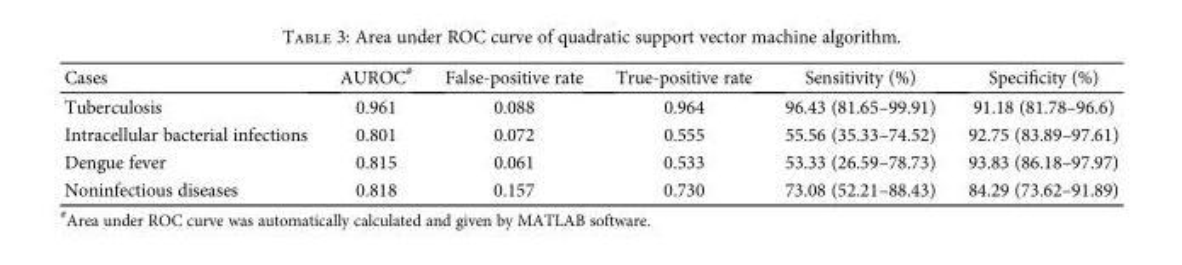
<table><thead><tr><td>Cases</td><td>AUROC<sup>#</sup></td><td>False-positive rate</td><td>True-positive rate</td><td>Sensitivity (%)</td><td>Specificity (%)</td></tr></thead><tbody><tr><td>Tuberculosis</td><td>0.961</td><td>0.088</td><td>0.964</td><td>96.43 (81.65–99.91)</td><td>91.18 (81.78–96.6)</td></tr><tr><td>Intracellular bacterial infections</td><td>0.801</td><td>0.072</td><td>0.555</td><td>55.56 (35.33–74.52)</td><td>92.75 (83.89–97.61)</td></tr><tr><td>Dengue fever</td><td>0.815</td><td>0.061</td><td>0.533</td><td>53.33 (26.59–78.73)</td><td>93.83 (86.18–97.97)</td></tr><tr><td>Noninfectious diseases</td><td>0.818</td><td>0.157</td><td>0.730</td><td>73.08 (52.21–88.43)</td><td>84.29 (73.62–91.89)</td></tr></tbody></table>